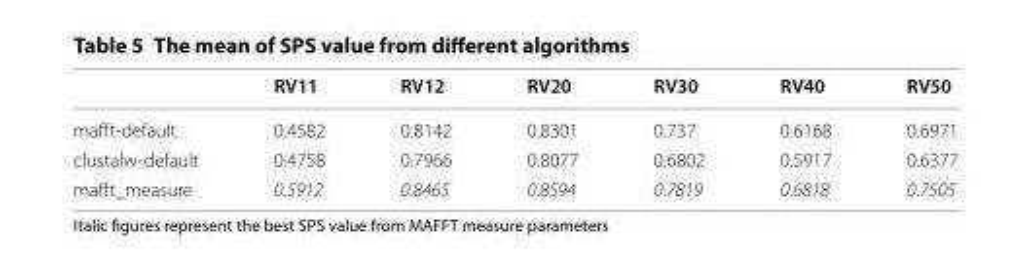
<table><thead><tr><td></td><td>RV11</td><td>RV12</td><td>RV20</td><td>RV30</td><td>RV40</td><td>RV50</td></tr></thead><tbody><tr><td>mafft-default</td><td>0.4582</td><td>0.8142</td><td>0.8301</td><td>0.737</td><td>0.6168</td><td>0.6971</td></tr><tr><td>clustalw-default</td><td>0.4758</td><td>0.7966</td><td>0.8077</td><td>0.6802</td><td>0.5917</td><td>0.6377</td></tr><tr><td>mafft_measure</td><td>0.5912</td><td>0.8465</td><td>0.8594</td><td>0.7819</td><td>0.6818</td><td>0.7505</td></tr></tbody></table>